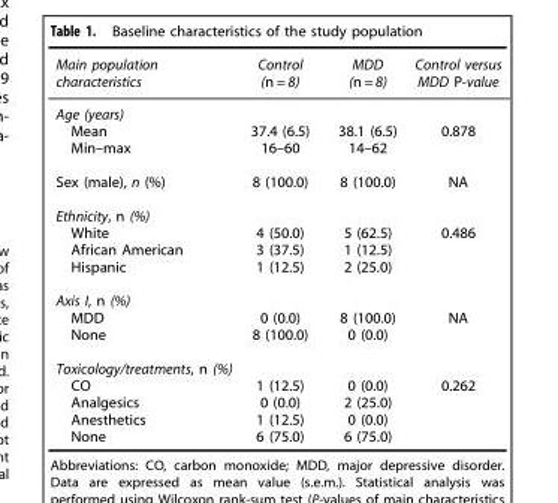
<table><thead><tr><td>Main population characteristics</td><td>Control (n = 8)</td><td>MDD (n = 8)</td><td>Control versus MDD P-value</td></tr></thead><tbody><tr><td colspan="4">Age (years)</td></tr><tr><td>Mean</td><td>37.4 (6.5)</td><td>38.1 (6.5)</td><td>0.878</td></tr><tr><td>Min–max</td><td>16–60</td><td>14–62</td><td></td></tr><tr><td>Sex (male), n (%)</td><td>8 (100.0)</td><td>8 (100.0)</td><td>NA</td></tr><tr><td colspan="4">Ethnicity, n (%)</td></tr><tr><td>White</td><td>4 (50.0)</td><td>5 (62.5)</td><td>0.486</td></tr><tr><td>African American</td><td>3 (37.5)</td><td>1 (12.5)</td><td></td></tr><tr><td>Hispanic</td><td>1 (12.5)</td><td>2 (25.0)</td><td></td></tr><tr><td colspan="4">Axis I, n (%)</td></tr><tr><td>MDD</td><td>0 (0.0)</td><td>8 (100.0)</td><td>NA</td></tr><tr><td>None</td><td>8 (100.0)</td><td>0 (0.0)</td><td></td></tr><tr><td colspan="4">Toxicology/treatments, n (%)</td></tr><tr><td>CO</td><td>1 (12.5)</td><td>0 (0.0)</td><td>0.262</td></tr><tr><td>Analgesics</td><td>0 (0.0)</td><td>2 (25.0)</td><td></td></tr><tr><td>Anesthetics</td><td>1 (12.5)</td><td>0 (0.0)</td><td></td></tr><tr><td>None</td><td>6 (75.0)</td><td>6 (75.0)</td><td></td></tr></tbody></table>